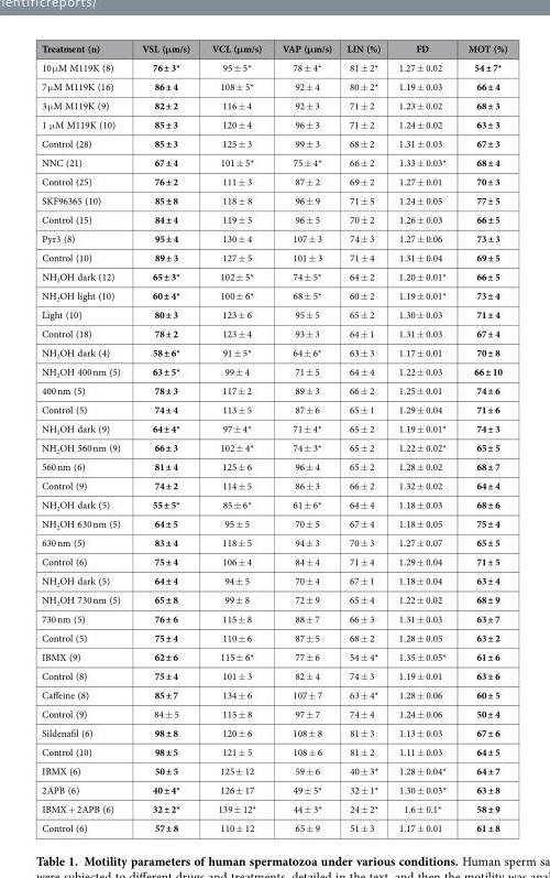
<table><thead><tr><td>Treatment (n)</td><td>VSL (μm/s)</td><td>VCL (μm/s)</td><td>VAP (μm/s)</td><td>LIN (%)</td><td>FD</td><td>MOT (%)</td></tr></thead><tbody><tr><td>10 μ M M119K (8)</td><td>76 ± 3*</td><td>95 ± 5*</td><td>78 ± 4*</td><td>81 ± 2*</td><td>1.27 ± 0.02</td><td>54 ± 7*</td></tr><tr><td>7 μ M M119K (16)</td><td>86 ± 4</td><td>108 ± 5*</td><td>92 ± 4</td><td>80 ± 2*</td><td>1.19 ± 0.03</td><td>66 ± 4</td></tr><tr><td>3 μ M M119K (9)</td><td>82 ± 2</td><td>116 ± 4</td><td>92 ± 3</td><td>71 ± 2</td><td>1.23 ± 0.02</td><td>68 ± 3</td></tr><tr><td>1 μ M M119K (10)</td><td>85 ± 3</td><td>120 ± 4</td><td>96 ± 3</td><td>71 ± 2</td><td>1.24 ± 0.02</td><td>63 ± 3</td></tr><tr><td>Control (28)</td><td>85 ± 3</td><td>125 ± 3</td><td>99 ± 3</td><td>68 ± 2</td><td>1.31 ± 0.03</td><td>67 ± 3</td></tr><tr><td>NNC (21)</td><td>67 ± 4</td><td>101 ± 5*</td><td>75 ± 4*</td><td>66 ± 2</td><td>1.33 ± 0.03*</td><td>68 ± 4</td></tr><tr><td>Control (25)</td><td>76 ± 2</td><td>111 ± 3</td><td>87 ± 2</td><td>69 ± 2</td><td>1.27 ± 0.01</td><td>70 ± 3</td></tr><tr><td>SKF96365 (10)</td><td>85 ± 8</td><td>118 ± 8</td><td>96 ± 9</td><td>71 ± 5</td><td>1.24 ± 0.05</td><td>77 ± 5</td></tr><tr><td>Control (15)</td><td>84 ± 4</td><td>119 ± 5</td><td>96 ± 5</td><td>70 ± 2</td><td>1.26 ± 0.03</td><td>66 ± 5</td></tr><tr><td>Pyr3 (8)</td><td>95 ± 4</td><td>130 ± 4</td><td>107 ± 3</td><td>74 ± 3</td><td>1.27 ± 0.06</td><td>73 ± 3</td></tr><tr><td>Control (10)</td><td>89 ± 3</td><td>127 ± 5</td><td>101 ± 3</td><td>71 ± 4</td><td>1.31 ± 0.04</td><td>69 ± 5</td></tr><tr><td>NH<sub>2</sub>OH dark (12)</td><td>65 ± 3*</td><td>102 ± 5*</td><td>74 ± 5*</td><td>64 ± 2</td><td>1.20 ± 0.01*</td><td>66 ± 5</td></tr><tr><td>NH<sub>2</sub>OH light (10)</td><td>60 ± 4*</td><td>100 ± 6*</td><td>68 ± 5*</td><td>60 ± 2</td><td>1.19 ± 0.01*</td><td>73 ± 4</td></tr><tr><td>Light (10)</td><td>80 ± 3</td><td>123 ± 6</td><td>95 ± 5</td><td>65 ± 2</td><td>1.30 ± 0.03</td><td>71 ± 4</td></tr><tr><td>Control (18)</td><td>78 ± 2</td><td>123 ± 4</td><td>93 ± 3</td><td>64 ± 1</td><td>1.31 ± 0.03</td><td>67 ± 4</td></tr><tr><td>NH<sub>2</sub>OH dark (4)</td><td>58 ± 6*</td><td>91 ± 5*</td><td>64 ± 6*</td><td>63 ± 3</td><td>1.17 ± 0.01</td><td>70 ± 8</td></tr><tr><td>NH<sub>2</sub>OH 400 nm (5)</td><td>63 ± 5*</td><td>99 ± 4</td><td>71 ± 5</td><td>64 ± 4</td><td>1.22 ± 0.03</td><td>66 ± 10</td></tr><tr><td>400 nm (5)</td><td>78 ± 3</td><td>117 ± 2</td><td>89 ± 3</td><td>66 ± 2</td><td>1.25 ± 0.01</td><td>74 ± 6</td></tr><tr><td>Control (5)</td><td>74 ± 4</td><td>113 ± 5</td><td>87 ± 6</td><td>65 ± 1</td><td>1.29 ± 0.04</td><td>71 ± 6</td></tr><tr><td>NH<sub>2</sub>OH dark (9)</td><td>64 ± 4*</td><td>97 ± 4*</td><td>71 ± 4*</td><td>65 ± 2</td><td>1.19 ± 0.01*</td><td>74 ± 3</td></tr><tr><td>NH<sub>2</sub>OH 560 nm (9)</td><td>66 ± 3</td><td>102 ± 4*</td><td>74 ± 3*</td><td>65 ± 2</td><td>1.22 ± 0.02*</td><td>65 ± 5</td></tr><tr><td>560 nm (6)</td><td>81 ± 4</td><td>125 ± 6</td><td>96 ± 4</td><td>65 ± 2</td><td>1.28 ± 0.02</td><td>68 ± 7</td></tr><tr><td>Control (9)</td><td>74 ± 2</td><td>114 ± 5</td><td>86 ± 3</td><td>66 ± 2</td><td>1.32 ± 0.02</td><td>64 ± 4</td></tr><tr><td>NH<sub>2</sub>OH dark (5)</td><td>55 ± 5*</td><td>85 ± 6*</td><td>61 ± 6*</td><td>64 ± 4</td><td>1.18 ± 0.03</td><td>68 ± 6</td></tr><tr><td>NH<sub>2</sub>OH 630 nm (5)</td><td>64 ± 5</td><td>95 ± 5</td><td>70 ± 5</td><td>67 ± 4</td><td>1.18 ± 0.05</td><td>75 ± 4</td></tr><tr><td>630 nm (5)</td><td>83 ± 4</td><td>118 ± 5</td><td>94 ± 3</td><td>70 ± 3</td><td>1.27 ± 0.07</td><td>65 ± 5</td></tr><tr><td>Control (6)</td><td>75 ± 4</td><td>106 ± 4</td><td>84 ± 4</td><td>71 ± 4</td><td>1.29 ± 0.04</td><td>71 ± 5</td></tr><tr><td>NH<sub>2</sub>OH dark (5)</td><td>64 ± 4</td><td>94 ± 5</td><td>70 ± 4</td><td>67 ± 1</td><td>1.18 ± 0.04</td><td>63 ± 4</td></tr><tr><td>NH<sub>2</sub>OH 730 nm (5)</td><td>65 ± 8</td><td>99 ± 8</td><td>72 ± 9</td><td>65 ± 4</td><td>1.22 ± 0.02</td><td>68 ± 9</td></tr><tr><td>730 nm (5)</td><td>76 ± 6</td><td>115 ± 8</td><td>88 ± 7</td><td>66 ± 3</td><td>1.31 ± 0.03</td><td>63 ± 7</td></tr><tr><td>Control (5)</td><td>75 ± 4</td><td>110 ± 6</td><td>87 ± 5</td><td>68 ± 2</td><td>1.28 ± 0.05</td><td>63 ± 2</td></tr><tr><td>IBMX (9)</td><td>62 ± 6</td><td>115 ± 6*</td><td>77 ± 6</td><td>54 ± 4*</td><td>1.35 ± 0.05*</td><td>61 ± 6</td></tr><tr><td>Control (8)</td><td>75 ± 4</td><td>101 ± 3</td><td>82 ± 4</td><td>74 ± 3</td><td>1.19 ± 0.01</td><td>63 ± 6</td></tr><tr><td>Caffeine (8)</td><td>85 ± 7</td><td>134 ± 6</td><td>107 ± 7</td><td>63 ± 4*</td><td>1.28 ± 0.06</td><td>60 ± 5</td></tr><tr><td>Control (9)</td><td>84 ± 5</td><td>115 ± 8</td><td>97 ± 7</td><td>74 ± 4</td><td>1.24 ± 0.06</td><td>50 ± 4</td></tr><tr><td>Sildenafil (6)</td><td>98 ± 8</td><td>120 ± 6</td><td>108 ± 8</td><td>81 ± 3</td><td>1.13 ± 0.03</td><td>67 ± 6</td></tr><tr><td>Control (10)</td><td>98 ± 5</td><td>121 ± 5</td><td>108 ± 6</td><td>81 ± 2</td><td>1.11 ± 0.03</td><td>64 ± 5</td></tr><tr><td>IBMX (6)</td><td>50 ± 5</td><td>125 ± 12</td><td>59 ± 6</td><td>40 ± 3*</td><td>1.28 ± 0.04*</td><td>64 ± 7</td></tr><tr><td>2APB (6)</td><td>40 ± 4*</td><td>126 ± 17</td><td>49 ± 5*</td><td>32 ± 1*</td><td>1.30 ± 0.03*</td><td>63 ± 8</td></tr><tr><td>IBMX + 2APB (6)</td><td>32 ± 2*</td><td>139 ± 12*</td><td>44 ± 3*</td><td>24 ± 2*</td><td>1.6 ± 0.1*</td><td>58 ± 9</td></tr><tr><td>Control (6)</td><td>57 ± 8</td><td>110 ± 12</td><td>65 ± 9</td><td>51 ± 3</td><td>1.17 ± 0.01</td><td>61 ± 8</td></tr></tbody></table>